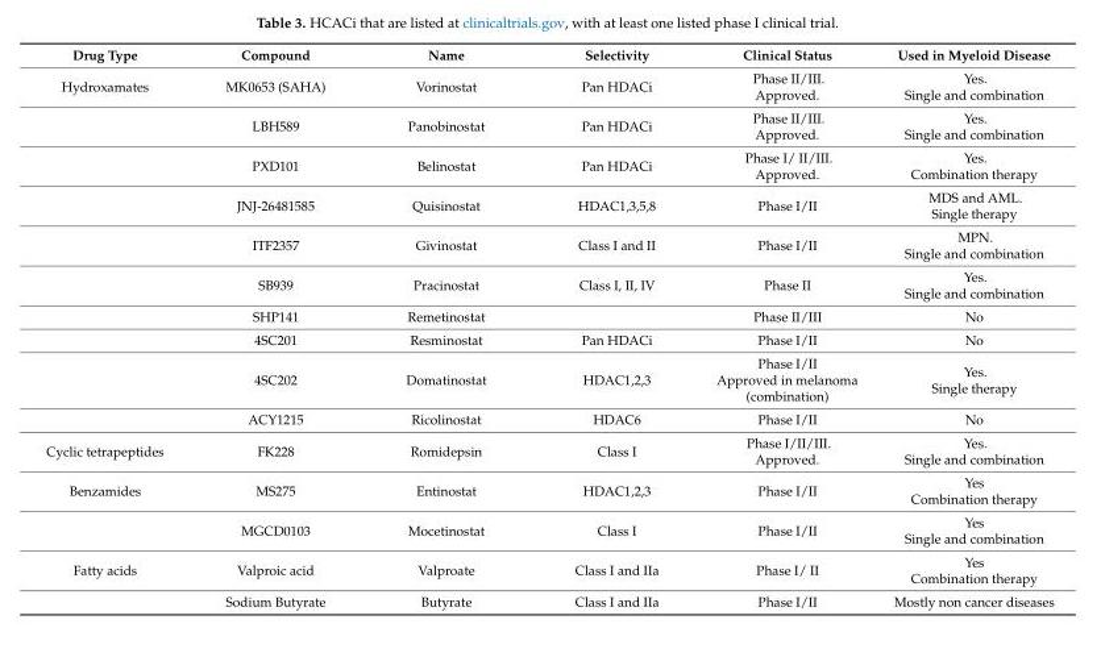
<table><thead><tr><td>Drug Type</td><td>Compound</td><td>Name</td><td>Selectivity</td><td>Clinical Status</td><td>Used in Myeloid Disease</td></tr></thead><tbody><tr><td rowspan="10">Hydroxamates</td><td>MK0653 (SAHA)</td><td>Vorinostat</td><td>Pan HDACi</td><td>Phase II/III. Approved.</td><td>Yes. Single and combination</td></tr><tr><td>LBH589</td><td>Panobinostat</td><td>Pan HDACi</td><td>Phase II/III. Approved.</td><td>Yes. Single and combination</td></tr><tr><td>PXD101</td><td>Belinostat</td><td>Pan HDACi</td><td>Phase I/ II/III. Approved.</td><td>Yes. Combination therapy</td></tr><tr><td>JNJ-26481585</td><td>Quisinostat</td><td>HDAC1,3,5,8</td><td>Phase I/II</td><td>MDS and AML. Single therapy</td></tr><tr><td>ITF2357</td><td>Givinostat</td><td>Class I and II</td><td>Phase I/II</td><td>MPN. Single and combination</td></tr><tr><td>SB939</td><td>Pracinostat</td><td>Class I, II, IV</td><td>Phase II</td><td>Yes. Single and combination</td></tr><tr><td>SHP141</td><td>Remetinostat</td><td></td><td>Phase II/III</td><td>No</td></tr><tr><td>4SC201</td><td>Resminostat</td><td>Pan HDACi</td><td>Phase I/II</td><td>No</td></tr><tr><td>4SC202</td><td>Domatinostat</td><td>HDAC1,2,3</td><td>Phase I/II Approved in melanoma (combination)</td><td>Yes. Single therapy</td></tr><tr><td>ACY1215</td><td>Ricolinostat</td><td>HDAC6</td><td>Phase I/II</td><td>No</td></tr><tr><td>Cyclic tetrapeptides</td><td>FK228</td><td>Romidepsin</td><td>Class I</td><td>Phase I/II/III. Approved.</td><td>Yes. Single and combination</td></tr><tr><td rowspan="2">Benzamides</td><td>MS275</td><td>Entinostat</td><td>HDAC1,2,3</td><td>Phase I/II</td><td>Yes Combination therapy</td></tr><tr><td>MGCD0103</td><td>Mocetinostat</td><td>Class I</td><td>Phase I/II</td><td>Yes Single and combination</td></tr><tr><td rowspan="2">Fatty acids</td><td>Valproic acid</td><td>Valproate</td><td>Class I and IIa</td><td>Phase I/ II</td><td>Yes Combination therapy</td></tr><tr><td>Sodium Butyrate</td><td>Butyrate</td><td>Class I and IIa</td><td>Phase I/II</td><td>Mostly non cancer diseases</td></tr></tbody></table>